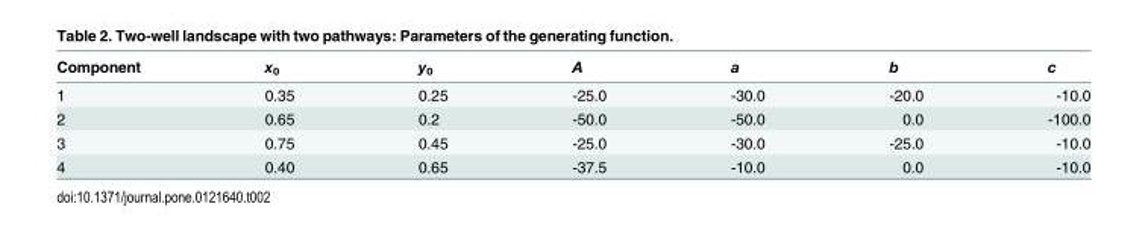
<table><thead><tr><td>Component</td><td>x<sub>0</sub></td><td>y<sub>0</sub></td><td>A</td><td>a</td><td>b</td><td>c</td></tr></thead><tbody><tr><td>1</td><td>0.35</td><td>0.25</td><td>-25.0</td><td>-30.0</td><td>-20.0</td><td>-10.0</td></tr><tr><td>2</td><td>0.65</td><td>0.2</td><td>-50.0</td><td>-50.0</td><td>0.0</td><td>-100.0</td></tr><tr><td>3</td><td>0.75</td><td>0.45</td><td>-25.0</td><td>-30.0</td><td>-25.0</td><td>-10.0</td></tr><tr><td>4</td><td>0.40</td><td>0.65</td><td>-37.5</td><td>-10.0</td><td>0.0</td><td>-10.0</td></tr></tbody></table>